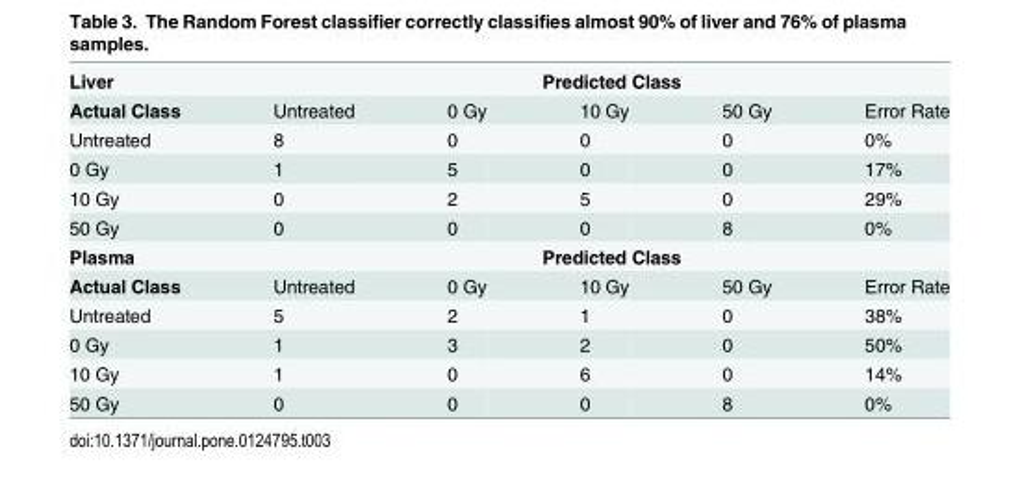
<table><tbody><tr><td>Liver</td><td colspan="5">Predicted Class</td></tr><tr><td>Actual Class</td><td>Untreated</td><td>0 Gy</td><td>10 Gy</td><td>50 Gy</td><td>Error Rate</td></tr><tr><td>Untreated</td><td>8</td><td>0</td><td>0</td><td>0</td><td>0%</td></tr><tr><td>0 Gy</td><td>1</td><td>5</td><td>0</td><td>0</td><td>17%</td></tr><tr><td>10 Gy</td><td>0</td><td>2</td><td>5</td><td>0</td><td>29%</td></tr><tr><td>50 Gy</td><td>0</td><td>0</td><td>0</td><td>8</td><td>0%</td></tr><tr><td>Plasma</td><td colspan="5">Predicted Class</td></tr><tr><td>Actual Class</td><td>Untreated</td><td>0 Gy</td><td>10 Gy</td><td>50 Gy</td><td>Error Rate</td></tr><tr><td>Untreated</td><td>5</td><td>2</td><td>1</td><td>0</td><td>38%</td></tr><tr><td>0 Gy</td><td>1</td><td>3</td><td>2</td><td>0</td><td>50%</td></tr><tr><td>10 Gy</td><td>1</td><td>0</td><td>6</td><td>0</td><td>14%</td></tr><tr><td>50 Gy</td><td>0</td><td>0</td><td>0</td><td>8</td><td>0%</td></tr></tbody></table>